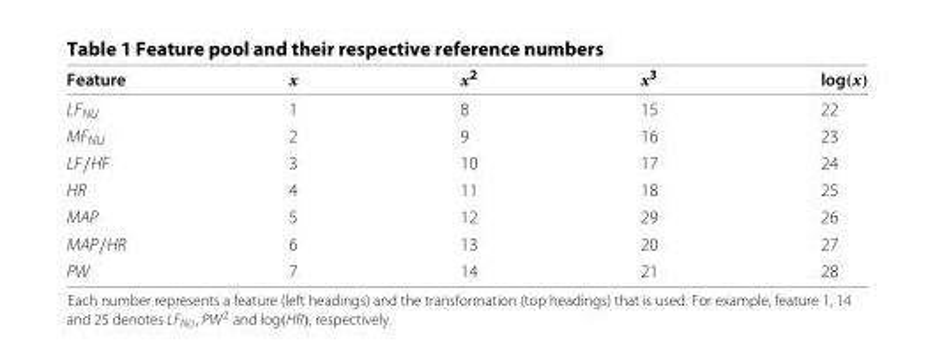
<table><thead><tr><td>Feature</td><td>x</td><td>x<sup>2</sup></td><td>x<sup>3</sup></td><td>log(x)</td></tr></thead><tbody><tr><td>LF<sub>NU</sub></td><td>1</td><td>8</td><td>15</td><td>22</td></tr><tr><td>MF<sub>NU</sub></td><td>2</td><td>9</td><td>16</td><td>23</td></tr><tr><td>LF/HF</td><td>3</td><td>10</td><td>17</td><td>24</td></tr><tr><td>HR</td><td>4</td><td>11</td><td>18</td><td>25</td></tr><tr><td>MAP</td><td>5</td><td>12</td><td>29</td><td>26</td></tr><tr><td>MAP/HR</td><td>6</td><td>13</td><td>20</td><td>27</td></tr><tr><td>PW</td><td>7</td><td>14</td><td>21</td><td>28</td></tr></tbody></table>